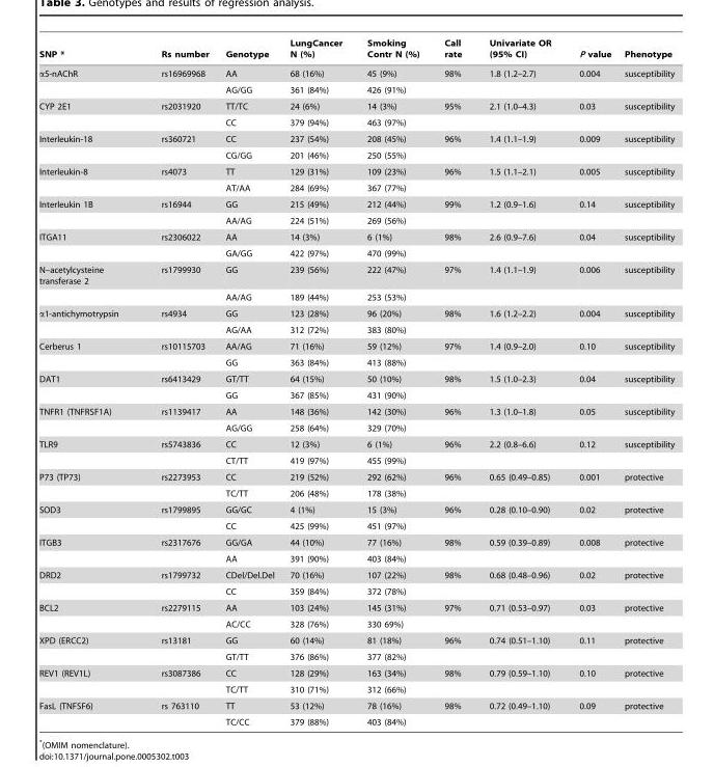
<table><thead><tr><td>SNP *</td><td>Rs number</td><td>Genotype</td><td>LungCancer N (%)</td><td>Smoking Contr N (%)</td><td>Call rate</td><td>Univariate OR (95% CI)</td><td>P value</td><td>Phenotype</td></tr></thead><tbody><tr><td rowspan="2">α5-nAChR</td><td>rs16969968</td><td>AA</td><td>68 (16%)</td><td>45 (9%)</td><td>98%</td><td>1.8 (1.2–2.7)</td><td>0.004</td><td>susceptibility</td></tr><tr><td></td><td>AG/GG</td><td>361 (84%)</td><td>426 (91%)</td><td></td><td></td><td></td><td></td></tr><tr><td rowspan="2">CYP 2E1</td><td>rs2031920</td><td>TT/TC</td><td>24 (6%)</td><td>14 (3%)</td><td>95%</td><td>2.1 (1.0–4.3)</td><td>0.03</td><td>susceptibility</td></tr><tr><td></td><td>CC</td><td>379 (94%)</td><td>463 (97%)</td><td></td><td></td><td></td><td></td></tr><tr><td rowspan="2">Interleukin-18</td><td>rs360721</td><td>CC</td><td>237 (54%)</td><td>208 (45%)</td><td>96%</td><td>1.4 (1.1–1.9)</td><td>0.009</td><td>susceptibility</td></tr><tr><td></td><td>CG/GG</td><td>201 (46%)</td><td>250 (55%)</td><td></td><td></td><td></td><td></td></tr><tr><td rowspan="2">Interleukin-8</td><td>rs4073</td><td>TT</td><td>129 (31%)</td><td>109 (23%)</td><td>96%</td><td>1.5 (1.1–2.1)</td><td>0.005</td><td>susceptibility</td></tr><tr><td></td><td>AT/AA</td><td>284 (69%)</td><td>367 (77%)</td><td></td><td></td><td></td><td></td></tr><tr><td rowspan="2">Interleukin 1B</td><td>rs16944</td><td>GG</td><td>215 (49%)</td><td>212 (44%)</td><td>99%</td><td>1.2 (0.9–1.6)</td><td>0.14</td><td>susceptibility</td></tr><tr><td></td><td>AA/AG</td><td>224 (51%)</td><td>269 (56%)</td><td></td><td></td><td></td><td></td></tr><tr><td rowspan="2">ITGA11</td><td>rs2306022</td><td>AA</td><td>14 (3%)</td><td>6 (1%)</td><td>98%</td><td>2.6 (0.9–7.6)</td><td>0.04</td><td>susceptibility</td></tr><tr><td></td><td>GA/GG</td><td>422 (97%)</td><td>470 (99%)</td><td></td><td></td><td></td><td></td></tr><tr><td rowspan="2">N–acetylcysteine transferase 2</td><td>rs1799930</td><td>GG</td><td>239 (56%)</td><td>222 (47%)</td><td>97%</td><td>1.4 (1.1–1.9)</td><td>0.006</td><td>susceptibility</td></tr><tr><td></td><td>AA/AG</td><td>189 (44%)</td><td>253 (53%)</td><td></td><td></td><td></td><td></td></tr><tr><td rowspan="2">α1-antichymotrypsin</td><td>rs4934</td><td>GG</td><td>123 (28%)</td><td>96 (20%)</td><td>98%</td><td>1.6 (1.2–2.2)</td><td>0.004</td><td>susceptibility</td></tr><tr><td></td><td>AG/AA</td><td>312 (72%)</td><td>383 (80%)</td><td></td><td></td><td></td><td></td></tr><tr><td rowspan="2">Cerberus 1</td><td>rs10115703</td><td>AA/AG</td><td>71 (16%)</td><td>59 (12%)</td><td>97%</td><td>1.4 (0.9–2.0)</td><td>0.10</td><td>susceptibility</td></tr><tr><td></td><td>GG</td><td>363 (84%)</td><td>413 (88%)</td><td></td><td></td><td></td><td></td></tr><tr><td rowspan="2">DAT1</td><td>rs6413429</td><td>GT/TT</td><td>64 (15%)</td><td>50 (10%)</td><td>98%</td><td>1.5 (1.0–2.3)</td><td>0.04</td><td>susceptibility</td></tr><tr><td></td><td>GG</td><td>367 (85%)</td><td>431 (90%)</td><td></td><td></td><td></td><td></td></tr><tr><td rowspan="2">TNFR1 (TNFRSF1A)</td><td>rs1139417</td><td>AA</td><td>148 (36%)</td><td>142 (30%)</td><td>96%</td><td>1.3 (1.0–1.8)</td><td>0.05</td><td>susceptibility</td></tr><tr><td></td><td>AG/GG</td><td>258 (64%)</td><td>329 (70%)</td><td></td><td></td><td></td><td></td></tr><tr><td rowspan="2">TLR9</td><td>rs5743836</td><td>CC</td><td>12 (3%)</td><td>6 (1%)</td><td>96%</td><td>2.2 (0.8–6.6)</td><td>0.12</td><td>susceptibility</td></tr><tr><td></td><td>CT/TT</td><td>419 (97%)</td><td>455 (99%)</td><td></td><td></td><td></td><td></td></tr><tr><td rowspan="2">P73 (TP73)</td><td>rs2273953</td><td>CC</td><td>219 (52%)</td><td>292 (62%)</td><td>96%</td><td>0.65 (0.49–0.85)</td><td>0.001</td><td>protective</td></tr><tr><td></td><td>TC/TT</td><td>206 (48%)</td><td>178 (38%)</td><td></td><td></td><td></td><td></td></tr><tr><td rowspan="2">SOD3</td><td>rs1799895</td><td>GG/GC</td><td>4 (1%)</td><td>15 (3%)</td><td>96%</td><td>0.28 (0.10–0.90)</td><td>0.02</td><td>protective</td></tr><tr><td></td><td>CC</td><td>425 (99%)</td><td>451 (97%)</td><td></td><td></td><td></td><td></td></tr><tr><td rowspan="2">ITGB3</td><td>rs2317676</td><td>GG/GA</td><td>44 (10%)</td><td>77 (16%)</td><td>98%</td><td>0.59 (0.39–0.89)</td><td>0.008</td><td>protective</td></tr><tr><td></td><td>AA</td><td>391 (90%)</td><td>403 (84%)</td><td></td><td></td><td></td><td></td></tr><tr><td rowspan="2">DRD2</td><td>rs1799732</td><td>CDel/Del.Del</td><td>70 (16%)</td><td>107 (22%)</td><td>98%</td><td>0.68 (0.48–0.96)</td><td>0.02</td><td>protective</td></tr><tr><td></td><td>CC</td><td>359 (84%)</td><td>372 (78%)</td><td></td><td></td><td></td><td></td></tr><tr><td rowspan="2">BCL2</td><td>rs2279115</td><td>AA</td><td>103 (24%)</td><td>145 (31%)</td><td>97%</td><td>0.71 (0.53–0.97)</td><td>0.03</td><td>protective</td></tr><tr><td></td><td>AC/CC</td><td>328 (76%)</td><td>330 69%)</td><td></td><td></td><td></td><td></td></tr><tr><td rowspan="2">XPD (ERCC2)</td><td>rs13181</td><td>GG</td><td>60 (14%)</td><td>81 (18%)</td><td>96%</td><td>0.74 (0.51–1.10)</td><td>0.11</td><td>protective</td></tr><tr><td></td><td>GT/TT</td><td>376 (86%)</td><td>377 (82%)</td><td></td><td></td><td></td><td></td></tr><tr><td rowspan="2">REV1 (REV1L)</td><td>rs3087386</td><td>CC</td><td>128 (29%)</td><td>163 (34%)</td><td>98%</td><td>0.79 (0.59–1.10)</td><td>0.10</td><td>protective</td></tr><tr><td></td><td>TC/TT</td><td>310 (71%)</td><td>312 (66%)</td><td></td><td></td><td></td><td></td></tr><tr><td rowspan="2">FasL (TNFSF6)</td><td>rs 763110</td><td>TT</td><td>53 (12%)</td><td>78 (16%)</td><td>98%</td><td>0.72 (0.49–1.10)</td><td>0.09</td><td>protective</td></tr><tr><td></td><td>TC/CC</td><td>379 (88%)</td><td>403 (84%)</td><td></td><td></td><td></td><td></td></tr></tbody></table>